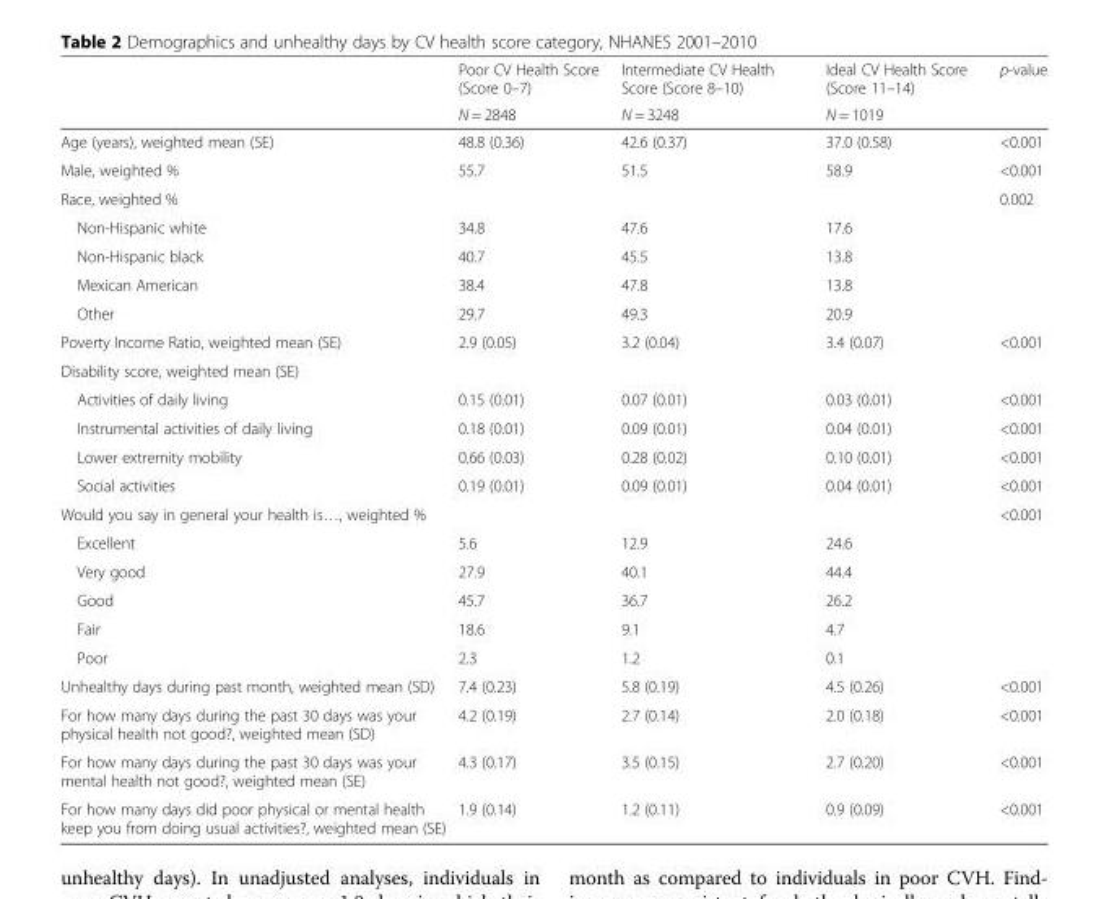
<table><thead><tr><td rowspan="2"></td><td rowspan="2">Poor CV Health Score (Score 0–7) N = 2848</td><td rowspan="2">Intermediate CV Health Score (Score 8–10) N = 3248</td><td rowspan="2">Ideal CV Health Score (Score 11–14) N = 1019</td><td rowspan="2">p-value</td></tr><tr></tr></thead><tbody><tr><td>Age (years), weighted mean (SE)</td><td>48.8 (0.36)</td><td>42.6 (0.37)</td><td>37.0 (0.58)</td><td>&lt;0.001</td></tr><tr><td>Male, weighted %</td><td>55.7</td><td>51.5</td><td>58.9</td><td>&lt;0.001</td></tr><tr><td>Race, weighted %</td><td></td><td></td><td></td><td>0.002</td></tr><tr><td>Non-Hispanic white</td><td>34.8</td><td>47.6</td><td>17.6</td><td></td></tr><tr><td>Non-Hispanic black</td><td>40.7</td><td>45.5</td><td>13.8</td><td></td></tr><tr><td>Mexican American</td><td>38.4</td><td>47.8</td><td>13.8</td><td></td></tr><tr><td>Other</td><td>29.7</td><td>49.3</td><td>20.9</td><td></td></tr><tr><td>Poverty Income Ratio, weighted mean (SE)</td><td>2.9 (0.05)</td><td>3.2 (0.04)</td><td>3.4 (0.07)</td><td>&lt;0.001</td></tr><tr><td colspan="5">Disability score, weighted mean (SE)</td></tr><tr><td>Activities of daily living</td><td>0.15 (0.01)</td><td>0.07 (0.01)</td><td>0.03 (0.01)</td><td>&lt;0.001</td></tr><tr><td>Instrumental activities of daily living</td><td>0.18 (0.01)</td><td>0.09 (0.01)</td><td>0.04 (0.01)</td><td>&lt;0.001</td></tr><tr><td>Lower extremity mobility</td><td>0.66 (0.03)</td><td>0.28 (0.02)</td><td>0.10 (0.01)</td><td>&lt;0.001</td></tr><tr><td>Social activities</td><td>0.19 (0.01)</td><td>0.09 (0.01)</td><td>0.04 (0.01)</td><td>&lt;0.001</td></tr><tr><td>Would you say in general your health is…, weighted %</td><td></td><td></td><td></td><td>&lt;0.001</td></tr><tr><td>Excellent</td><td>5.6</td><td>12.9</td><td>24.6</td><td></td></tr><tr><td>Very good</td><td>27.9</td><td>40.1</td><td>44.4</td><td></td></tr><tr><td>Good</td><td>45.7</td><td>36.7</td><td>26.2</td><td></td></tr><tr><td>Fair</td><td>18.6</td><td>9.1</td><td>4.7</td><td></td></tr><tr><td>Poor</td><td>2.3</td><td>1.2</td><td>0.1</td><td></td></tr><tr><td>Unhealthy days during past month, weighted mean (SD)</td><td>7.4 (0.23)</td><td>5.8 (0.19)</td><td>4.5 (0.26)</td><td>&lt;0.001</td></tr><tr><td>For how many days during the past 30 days was your physical health not good?, weighted mean (SD)</td><td>4.2 (0.19)</td><td>2.7 (0.14)</td><td>2.0 (0.18)</td><td>&lt;0.001</td></tr><tr><td>For how many days during the past 30 days was your mental health not good?, weighted mean (SE)</td><td>4.3 (0.17)</td><td>3.5 (0.15)</td><td>2.7 (0.20)</td><td>&lt;0.001</td></tr><tr><td>For how many days did poor physical or mental health keep you from doing usual activities?, weighted mean (SE)</td><td>1.9 (0.14)</td><td>1.2 (0.11)</td><td>0.9 (0.09)</td><td>&lt;0.001</td></tr></tbody></table>